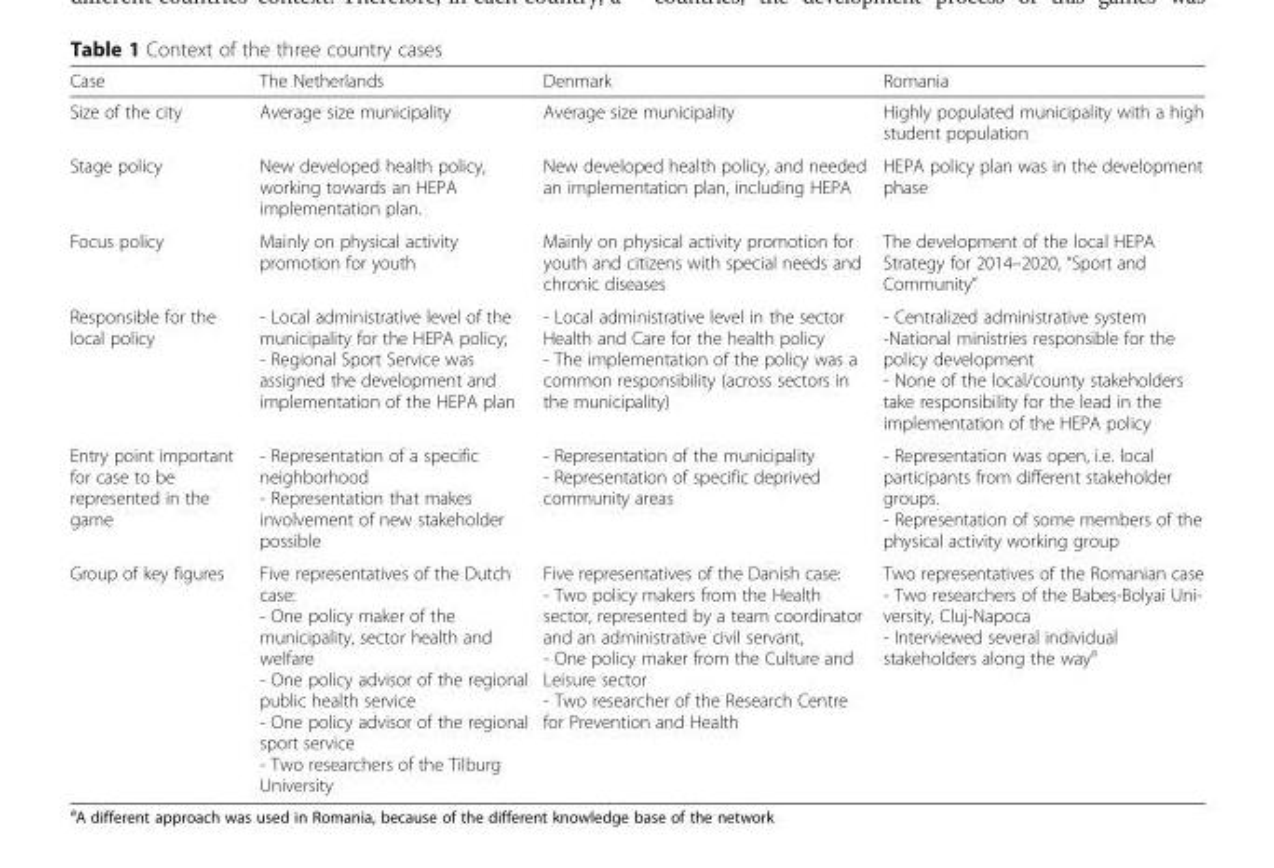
<table><thead><tr><td>Case</td><td>The Netherlands</td><td>Denmark</td><td>Romania</td></tr></thead><tbody><tr><td>Size of the city</td><td>Average size municipality</td><td>Average size municipality</td><td>Highly populated municipality with a high student population</td></tr><tr><td>Stage policy</td><td>New developed health policy, working towards an HEPA implementation plan.</td><td>New developed health policy, and needed an implementation plan, including HEPA</td><td>HEPA policy plan was in the development phase</td></tr><tr><td>Focus policy</td><td>Mainly on physical activity promotion for youth</td><td>Mainly on physical activity promotion for youth and citizens with special needs and chronic diseases</td><td>The development of the local HEPA Strategy for 2014–2020, “Sport and Community”</td></tr><tr><td>Responsible for the local policy</td><td>- Local administrative level of the municipality for the HEPA policy; - Regional Sport Service was assigned the development and implementation of the HEPA plan</td><td>- Local administrative level in the sector Health and Care for the health policy - The implementation of the policy was a common responsibility (across sectors in the municipality)</td><td>- Centralized administrative system -National ministries responsible for the policy development - None of the local/county stakeholders take responsibility for the lead in the implementation of the HEPA policy</td></tr><tr><td>Entry point important for case to be represented in the game</td><td>- Representation of a specific neighborhood - Representation that makes involvement of new stakeholder possible</td><td>- Representation of the municipality - Representation of specific deprived community areas</td><td>- Representation was open, i.e. local participants from different stakeholder groups. - Representation of some members of the physical activity working group</td></tr><tr><td>Group of key figures</td><td>Five representatives of the Dutch case: - One policy maker of the municipality, sector health and welfare - One policy advisor of the regional public health service - One policy advisor of the regional sport service - Two researchers of the Tilburg University</td><td>Five representatives of the Danish case: - Two policy makers from the Health sector, represented by a team coordinator and an administrative civil servant, - One policy maker from the Culture and Leisure sector - Two researcher of the Research Centre for Prevention and Health</td><td>Two representatives of the Romanian case - Two researchers of the Babes-Bolyai Uni- versity, Cluj-Napoca - Interviewed several individual stakeholders along the waya</td></tr></tbody></table>